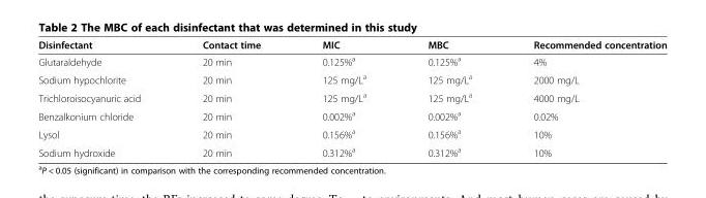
<table><thead><tr><td>Disinfectant</td><td>Contact time</td><td>MIC</td><td>MBC</td><td>Recommended concentration</td></tr></thead><tbody><tr><td>Glutaraldehyde</td><td>20 min</td><td>0.125%<sup>a</sup></td><td>0.125%<sup>a</sup></td><td>4%</td></tr><tr><td>Sodium hypochlorite</td><td>20 min</td><td>125 mg/L<sup>a</sup></td><td>125 mg/L<sup>a</sup></td><td>2000 mg/L</td></tr><tr><td>Trichloroisocyanuric acid</td><td>20 min</td><td>125 mg/L<sup>a</sup></td><td>125 mg/L<sup>a</sup></td><td>4000 mg/L</td></tr><tr><td>Benzalkonium chloride</td><td>20 min</td><td>0.002%<sup>a</sup></td><td>0.002%<sup>a</sup></td><td>0.02%</td></tr><tr><td>Lysol</td><td>20 min</td><td>0.156%<sup>a</sup></td><td>0.156%<sup>a</sup></td><td>10%</td></tr><tr><td>Sodium hydroxide</td><td>20 min</td><td>0.312%<sup>a</sup></td><td>0.312%<sup>a</sup></td><td>10%</td></tr></tbody></table>